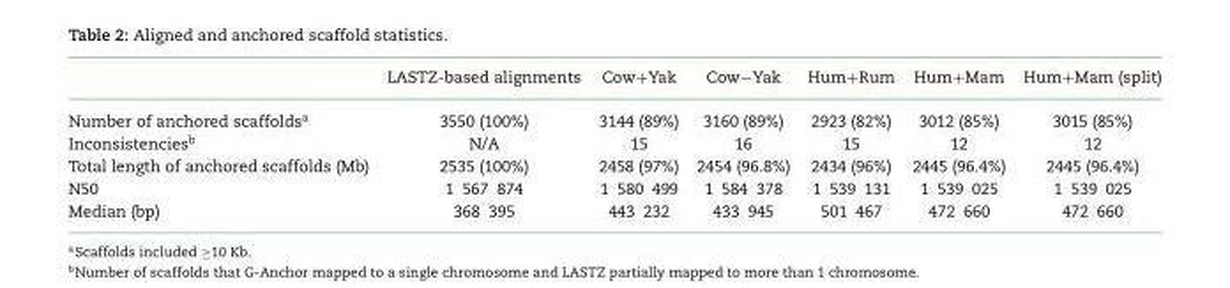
<table><thead><tr><td></td><td>LASTZ-based alignments</td><td>Cow+Yak</td><td>Cow−Yak</td><td>Hum+Rum</td><td>Hum+Mam</td><td>Hum+Mam (split)</td></tr></thead><tbody><tr><td>Number of anchored scaffolds<sup>a</sup></td><td>3550 (100%)</td><td>3144 (89%)</td><td>3160 (89%)</td><td>2923 (82%)</td><td>3012 (85%)</td><td>3015 (85%)</td></tr><tr><td>Inconsistencies<sup>b</sup></td><td>N/A</td><td>15</td><td>16</td><td>15</td><td>12</td><td>12</td></tr><tr><td>Total length of anchored scaffolds (Mb)</td><td>2535 (100%)</td><td>2458 (97%)</td><td>2454 (96.8%)</td><td>2434 (96%)</td><td>2445 (96.4%)</td><td>2445 (96.4%)</td></tr><tr><td>N50</td><td>1 567 874</td><td>1 580 499</td><td>1 584 378</td><td>1 539 131</td><td>1 539 025</td><td>1 539 025</td></tr><tr><td>Median (bp)</td><td>368 395</td><td>443 232</td><td>433 945</td><td>501 467</td><td>472 660</td><td>472 660</td></tr></tbody></table>